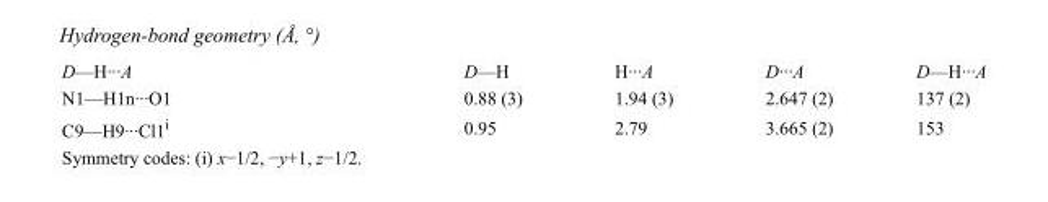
<table><tbody><tr><td>D—H···A</td><td>D—H</td><td>H···A</td><td>D···A</td><td>D—H···A</td></tr><tr><td>N1—H1n···O1</td><td>0.88 (3)</td><td>1.94 (3)</td><td>2.647 (2)</td><td>137 (2)</td></tr><tr><td>C9—H9···Cl1<sup>i</sup></td><td>0.95</td><td>2.79</td><td>3.665 (2)</td><td>153</td></tr></tbody></table>